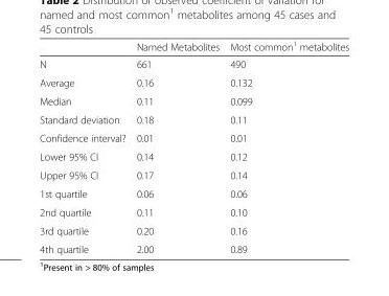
<table><thead><tr><td></td><td>Named Metabolites</td><td>Most common<sup>1</sup> metabolites</td></tr></thead><tbody><tr><td>N</td><td>661</td><td>490</td></tr><tr><td>Average</td><td>0.16</td><td>0.132</td></tr><tr><td>Median</td><td>0.11</td><td>0.099</td></tr><tr><td>Standard deviation</td><td>0.18</td><td>0.11</td></tr><tr><td>Confidence interval?</td><td>0.01</td><td>0.01</td></tr><tr><td>Lower 95% CI</td><td>0.14</td><td>0.12</td></tr><tr><td>Upper 95% CI</td><td>0.17</td><td>0.14</td></tr><tr><td>1st quartile</td><td>0.06</td><td>0.06</td></tr><tr><td>2nd quartile</td><td>0.11</td><td>0.10</td></tr><tr><td>3rd quartile</td><td>0.20</td><td>0.16</td></tr><tr><td>4th quartile</td><td>2.00</td><td>0.89</td></tr></tbody></table>